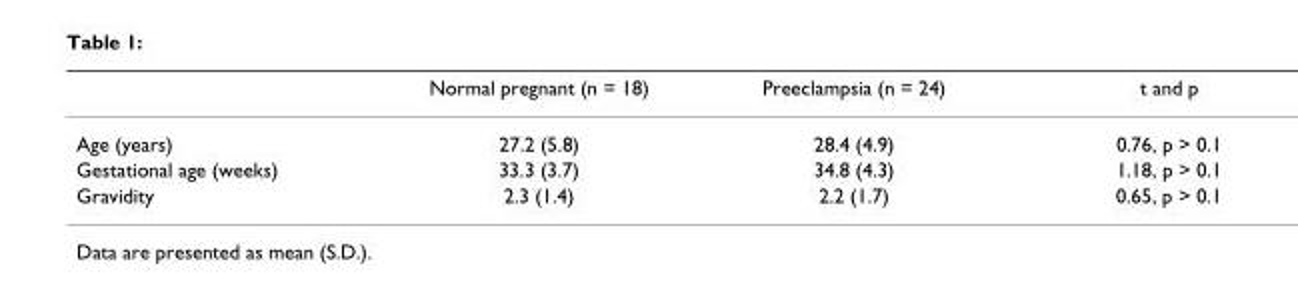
<table><thead><tr><td></td><td>Normal pregnant (n = 18)</td><td>Preeclampsia (n = 24)</td><td>t and p</td></tr></thead><tbody><tr><td>Age (years)</td><td>27.2 (5.8)</td><td>28.4 (4.9)</td><td>0.76, p &gt; 0.1</td></tr><tr><td>Gestational age (weeks)</td><td>33.3 (3.7)</td><td>34.8 (4.3)</td><td>1.18, p &gt; 0.1</td></tr><tr><td>Gravidity</td><td>2.3 (1.4)</td><td>2.2 (1.7)</td><td>0.65, p &gt; 0.1</td></tr></tbody></table>